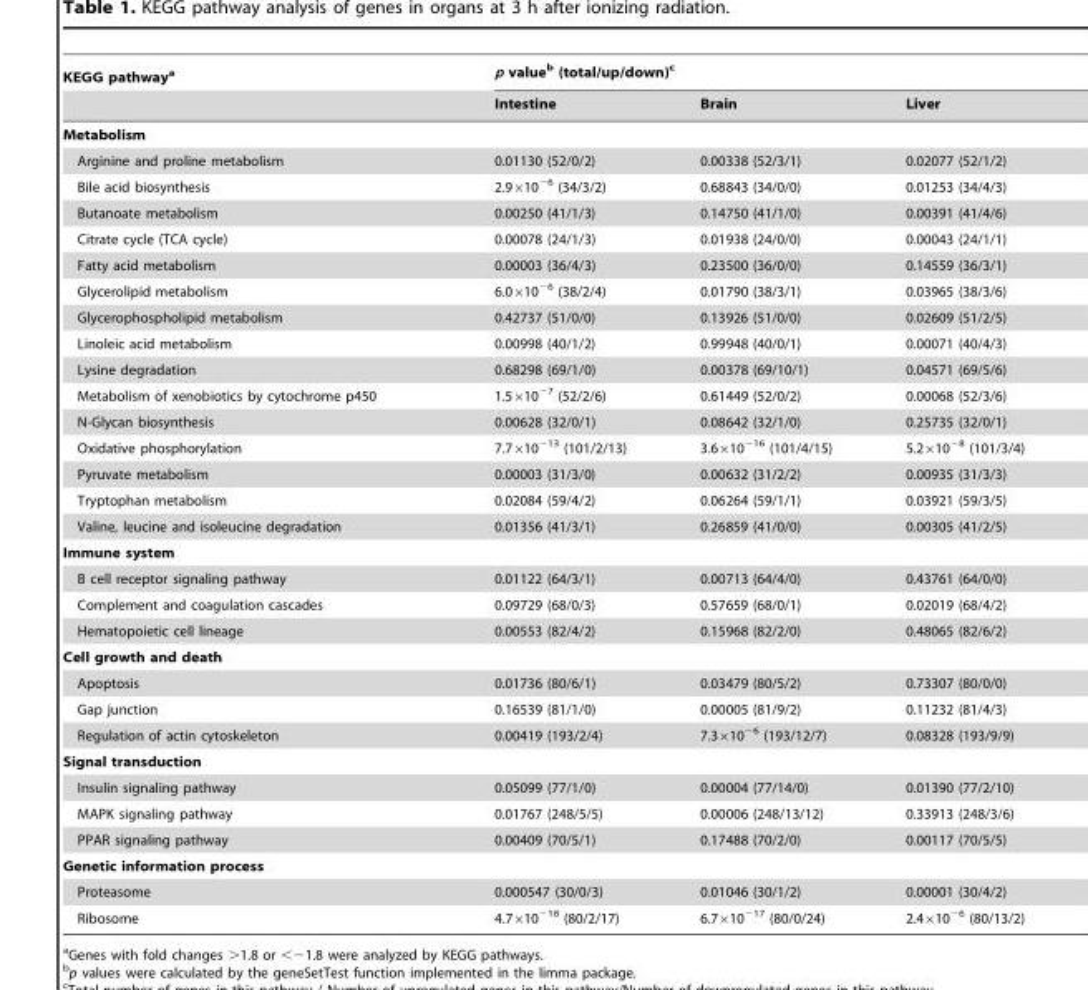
<table><thead><tr><td rowspan="2">KEGG pathway<sup>a</sup></td><td colspan="3">p value<sup>b</sup> (total/up/down)<sup>c</sup></td></tr><tr><td>Intestine</td><td>Brain</td><td>Liver</td></tr></thead><tbody><tr><td colspan="4">Metabolism</td></tr><tr><td>Arginine and proline metabolism</td><td>0.01130 (52/0/2)</td><td>0.00338 (52/3/1)</td><td>0.02077 (52/1/2)</td></tr><tr><td>Bile acid biosynthesis</td><td>2.9×10<sup>−6</sup> (34/3/2)</td><td>0.68843 (34/0/0)</td><td>0.01253 (34/4/3)</td></tr><tr><td>Butanoate metabolism</td><td>0.00250 (41/1/3)</td><td>0.14750 (41/1/0)</td><td>0.00391 (41/4/6)</td></tr><tr><td>Citrate cycle (TCA cycle)</td><td>0.00078 (24/1/3)</td><td>0.01938 (24/0/0)</td><td>0.00043 (24/1/1)</td></tr><tr><td>Fatty acid metabolism</td><td>0.00003 (36/4/3)</td><td>0.23500 (36/0/0)</td><td>0.14559 (36/3/1)</td></tr><tr><td>Glycerolipid metabolism</td><td>6.0×10<sup>−6</sup> (38/2/4)</td><td>0.01790 (38/3/1)</td><td>0.03965 (38/3/6)</td></tr><tr><td>Glycerophospholipid metabolism</td><td>0.42737 (51/0/0)</td><td>0.13926 (51/0/0)</td><td>0.02609 (51/2/5)</td></tr><tr><td>Linoleic acid metabolism</td><td>0.00998 (40/1/2)</td><td>0.99948 (40/0/1)</td><td>0.00071 (40/4/3)</td></tr><tr><td>Lysine degradation</td><td>0.68298 (69/1/0)</td><td>0.00378 (69/10/1)</td><td>0.04571 (69/5/6)</td></tr><tr><td>Metabolism of xenobiotics by cytochrome p450</td><td>1.5×10<sup>−7</sup> (52/2/6)</td><td>0.61449 (52/0/2)</td><td>0.00068 (52/3/6)</td></tr><tr><td>N-Glycan biosynthesis</td><td>0.00628 (32/0/1)</td><td>0.08642 (32/1/0)</td><td>0.25735 (32/0/1)</td></tr><tr><td>Oxidative phosphorylation</td><td>7.7×10<sup>−13</sup> (101/2/13)</td><td>3.6×10<sup>−16</sup> (101/4/15)</td><td>5.2×10<sup>−8</sup> (101/3/4)</td></tr><tr><td>Pyruvate metabolism</td><td>0.00003 (31/3/0)</td><td>0.00632 (31/2/2)</td><td>0.00935 (31/3/3)</td></tr><tr><td>Tryptophan metabolism</td><td>0.02084 (59/4/2)</td><td>0.06264 (59/1/1)</td><td>0.03921 (59/3/5)</td></tr><tr><td>Valine, leucine and isoleucine degradation</td><td>0.01356 (41/3/1)</td><td>0.26859 (41/0/0)</td><td>0.00305 (41/2/5)</td></tr><tr><td colspan="4">Immune system</td></tr><tr><td>B cell receptor signaling pathway</td><td>0.01122 (64/3/1)</td><td>0.00713 (64/4/0)</td><td>0.43761 (64/0/0)</td></tr><tr><td>Complement and coagulation cascades</td><td>0.09729 (68/0/3)</td><td>0.57659 (68/0/1)</td><td>0.02019 (68/4/2)</td></tr><tr><td>Hematopoietic cell lineage</td><td>0.00553 (82/4/2)</td><td>0.15968 (82/2/0)</td><td>0.48065 (82/6/2)</td></tr><tr><td colspan="4">Cell growth and death</td></tr><tr><td>Apoptosis</td><td>0.01736 (80/6/1)</td><td>0.03479 (80/5/2)</td><td>0.73307 (80/0/0)</td></tr><tr><td>Gap junction</td><td>0.16539 (81/1/0)</td><td>0.00005 (81/9/2)</td><td>0.11232 (81/4/3)</td></tr><tr><td>Regulation of actin cytoskeleton</td><td>0.00419 (193/2/4)</td><td>7.3×10<sup>−6</sup> (193/12/7)</td><td>0.08328 (193/9/9)</td></tr><tr><td colspan="4">Signal transduction</td></tr><tr><td>Insulin signaling pathway</td><td>0.05099 (77/1/0)</td><td>0.00004 (77/14/0)</td><td>0.01390 (77/2/10)</td></tr><tr><td>MAPK signaling pathway</td><td>0.01767 (248/5/5)</td><td>0.00006 (248/13/12)</td><td>0.33913 (248/3/6)</td></tr><tr><td>PPAR signaling pathway</td><td>0.00409 (70/5/1)</td><td>0.17488 (70/2/0)</td><td>0.00117 (70/5/5)</td></tr><tr><td colspan="4">Genetic information process</td></tr><tr><td>Proteasome</td><td>0.000547 (30/0/3)</td><td>0.01046 (30/1/2)</td><td>0.00001 (30/4/2)</td></tr><tr><td>Ribosome</td><td>4.7×10<sup>−18</sup> (80/2/17)</td><td>6.7×10<sup>−17</sup> (80/0/24)</td><td>2.4×10<sup>−6</sup> (80/13/2)</td></tr></tbody></table>